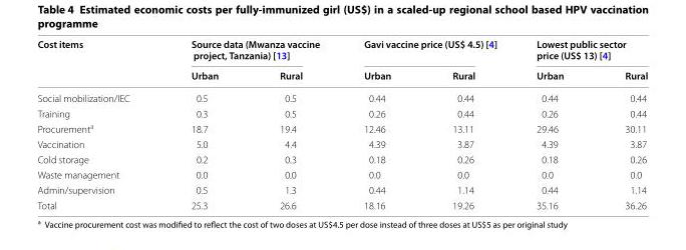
<table><thead><tr><td rowspan="2">Cost items</td><td colspan="2">Source data (Mwanza vaccine project, Tanzania) [13]</td><td colspan="2">Gavi vaccine price (US$ 4.5) [4]</td><td colspan="2">Lowest public sector price (US$ 13) [4]</td></tr><tr><td>Urban</td><td>Rural</td><td>Urban</td><td>Rural</td><td>Urban</td><td>Rural</td></tr></thead><tbody><tr><td>Social mobilization/IEC</td><td>0.5</td><td>0.5</td><td>0.44</td><td>0.44</td><td>0.44</td><td>0.44</td></tr><tr><td>Training</td><td>0.3</td><td>0.5</td><td>0.26</td><td>0.44</td><td>0.26</td><td>0.44</td></tr><tr><td>Procurement<sup>a</sup></td><td>18.7</td><td>19.4</td><td>12.46</td><td>13.11</td><td>29.46</td><td>30.11</td></tr><tr><td>Vaccination</td><td>5.0</td><td>4.4</td><td>4.39</td><td>3.87</td><td>4.39</td><td>3.87</td></tr><tr><td>Cold storage</td><td>0.2</td><td>0.3</td><td>0.18</td><td>0.26</td><td>0.18</td><td>0.26</td></tr><tr><td>Waste management</td><td>0.0</td><td>0.0</td><td>0.0</td><td>0.0</td><td>0.0</td><td>0.0</td></tr><tr><td>Admin/supervision</td><td>0.5</td><td>1.3</td><td>0.44</td><td>1.14</td><td>0.44</td><td>1.14</td></tr><tr><td>Total</td><td>25.3</td><td>26.6</td><td>18.16</td><td>19.26</td><td>35.16</td><td>36.26</td></tr></tbody></table>